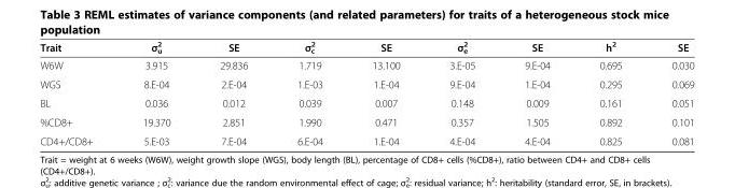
<table><thead><tr><td>Trait</td><td>σ<sup>2</sup> <sub>u</sub></td><td>SE</td><td>σ<sup>2</sup> <sub>c</sub></td><td>SE</td><td>σ<sup>2</sup> <sub>e</sub></td><td>SE</td><td>h<sup>2</sup></td><td>SE</td></tr></thead><tbody><tr><td>W6W</td><td>3.915</td><td>29.836</td><td>1.719</td><td>13.100</td><td>3.E-05</td><td>9.E-04</td><td>0.695</td><td>0.030</td></tr><tr><td>WGS</td><td>8.E-04</td><td>2.E-04</td><td>1.E-03</td><td>1.E-04</td><td>9.E-04</td><td>1.E-04</td><td>0.295</td><td>0.069</td></tr><tr><td>BL</td><td>0.036</td><td>0.012</td><td>0.039</td><td>0.007</td><td>0.148</td><td>0.009</td><td>0.161</td><td>0.051</td></tr><tr><td>%CD8+</td><td>19.370</td><td>2.851</td><td>1.990</td><td>0.471</td><td>0.357</td><td>1.505</td><td>0.892</td><td>0.101</td></tr><tr><td>CD4+/CD8+</td><td>5.E-03</td><td>7.E-04</td><td>6.E-04</td><td>1.E-04</td><td>4.E-04</td><td>4.E-04</td><td>0.825</td><td>0.081</td></tr></tbody></table>